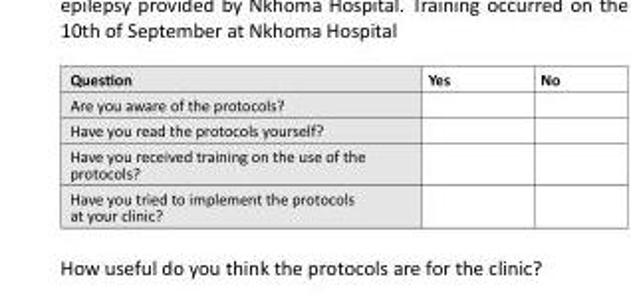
<table><thead><tr><td>Question</td><td>Yes</td><td>No</td></tr></thead><tbody><tr><td colspan="3">Are you aware of the protocols?</td></tr><tr><td colspan="3">Have you read the protocols yourself?</td></tr><tr><td colspan="3">Have you received training on the use of the protocols?</td></tr><tr><td colspan="3">Have you tried to implement the protocols</td></tr><tr><td>at your clinic?</td><td></td><td></td></tr></tbody></table>